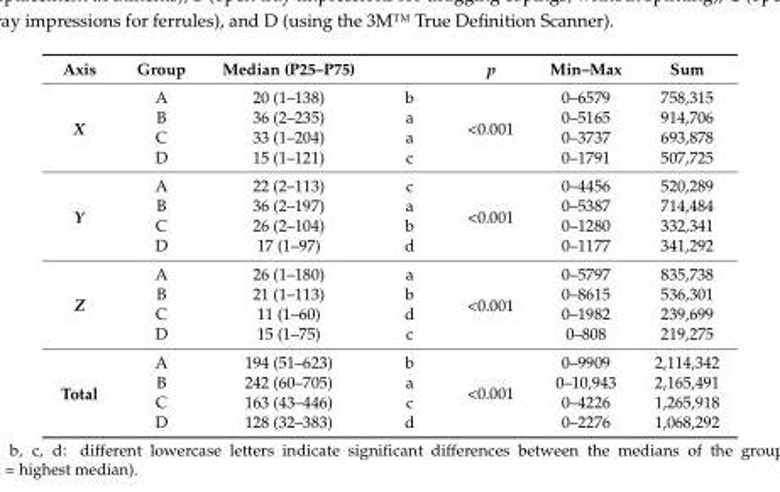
<table><thead><tr><td>Axis</td><td>Group</td><td>Median (P25–P75)</td><td></td><td>p</td><td>Min–Max</td><td>Sum</td></tr></thead><tbody><tr><td rowspan="4">X</td><td>A</td><td>20 (1–138)</td><td>b</td><td rowspan="4">&lt;0.001</td><td>0–6579</td><td>758,315</td></tr><tr><td>B</td><td>36 (2–235)</td><td>a</td><td>0–5165</td><td>914,706</td></tr><tr><td>C</td><td>33 (1–204)</td><td>a</td><td>0–3737</td><td>693,878</td></tr><tr><td>D</td><td>15 (1–121)</td><td>c</td><td>0–1791</td><td>507,725</td></tr><tr><td rowspan="4">Y</td><td>A</td><td>22 (2–113)</td><td>c</td><td rowspan="4">&lt;0.001</td><td>0–4456</td><td>520,289</td></tr><tr><td>B</td><td>36 (2–197)</td><td>a</td><td>0–5387</td><td>714,484</td></tr><tr><td>C</td><td>26 (2–104)</td><td>b</td><td>0–1280</td><td>332,341</td></tr><tr><td>D</td><td>17 (1–97)</td><td>d</td><td>0–1177</td><td>341,292</td></tr><tr><td rowspan="4">Z</td><td>A</td><td>26 (1–180)</td><td>a</td><td rowspan="4">&lt;0.001</td><td>0–5797</td><td>835,738</td></tr><tr><td>B</td><td>21 (1–113)</td><td>b</td><td>0–8615</td><td>536,301</td></tr><tr><td>C</td><td>11 (1–60)</td><td>d</td><td>0–1982</td><td>239,699</td></tr><tr><td>D</td><td>15 (1–75)</td><td>c</td><td>0–808</td><td>219,275</td></tr><tr><td rowspan="4">Total</td><td>A</td><td>194 (51–623)</td><td>b</td><td rowspan="4">&lt;0.001</td><td>0–9909</td><td>2,114,342</td></tr><tr><td>B</td><td>242 (60–705)</td><td>a</td><td>0–10,943</td><td>2,165,491</td></tr><tr><td>C</td><td>163 (43–446)</td><td>c</td><td>0–4226</td><td>1,265,918</td></tr><tr><td>D</td><td>128 (32–383)</td><td>d</td><td>0–2276</td><td>1,068,292</td></tr></tbody></table>